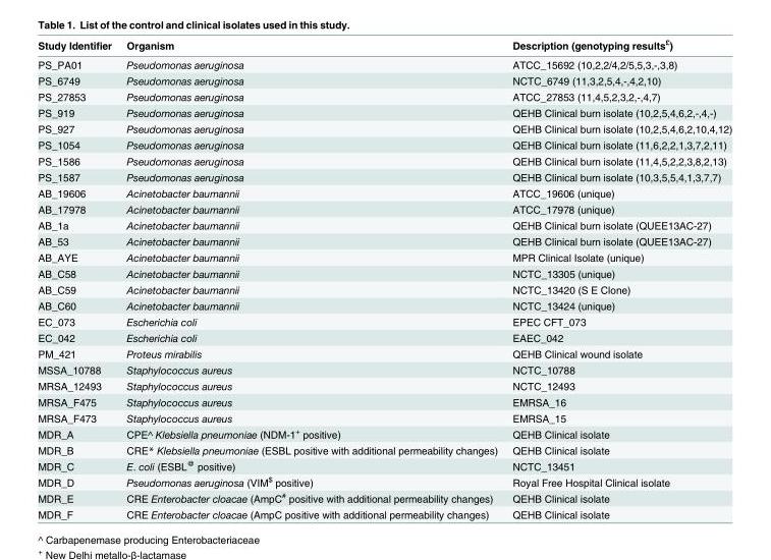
<table><thead><tr><td>Study Identifier</td><td>Organism</td><td>Description (genotyping results<sup>£</sup>)</td></tr></thead><tbody><tr><td>PS_PA01</td><td>Pseudomonas aeruginosa</td><td>ATCC_15692 (10,2,2/4,2/5,5,3,-,3,8)</td></tr><tr><td>PS_6749</td><td>Pseudomonas aeruginosa</td><td>NCTC_6749 (11,3,2,5,4,-,4,2,10)</td></tr><tr><td>PS_27853</td><td>Pseudomonas aeruginosa</td><td>ATCC_27853 (11,4,5,2,3,2,-,4,7)</td></tr><tr><td>PS_919</td><td>Pseudomonas aeruginosa</td><td>QEHB Clinical burn isolate (10,2,5,4,6,2,-,4,-)</td></tr><tr><td>PS_927</td><td>Pseudomonas aeruginosa</td><td>QEHB Clinical burn isolate (10,2,5,4,6,2,10,4,12)</td></tr><tr><td>PS_1054</td><td>Pseudomonas aeruginosa</td><td>QEHB Clinical burn isolate (11,6,2,2,1,3,7,2,11)</td></tr><tr><td>PS_1586</td><td>Pseudomonas aeruginosa</td><td>QEHB Clinical burn isolate (11,4,5,2,2,3,8,2,13)</td></tr><tr><td>PS_1587</td><td>Pseudomonas aeruginosa</td><td>QEHB Clinical burn isolate (10,3,5,5,4,1,3,7,7)</td></tr><tr><td>AB_19606</td><td>Acinetobacter baumannii</td><td>ATCC_19606 (unique)</td></tr><tr><td>AB_17978</td><td>Acinetobacter baumannii</td><td>ATCC_17978 (unique)</td></tr><tr><td>AB_1a</td><td>Acinetobacter baumannii</td><td>QEHB Clinical burn isolate (QUEE13AC-27)</td></tr><tr><td>AB_53</td><td>Acinetobacter baumannii</td><td>QEHB Clinical burn isolate (QUEE13AC-27)</td></tr><tr><td>AB_AYE</td><td>Acinetobacter baumannii</td><td>MPR Clinical Isolate (unique)</td></tr><tr><td>AB_C58</td><td>Acinetobacter baumannii</td><td>NCTC_13305 (unique)</td></tr><tr><td>AB_C59</td><td>Acinetobacter baumannii</td><td>NCTC_13420 (S E Clone)</td></tr><tr><td>AB_C60</td><td>Acinetobacter baumannii</td><td>NCTC_13424 (unique)</td></tr><tr><td>EC_073</td><td>Escherichia coli</td><td>EPEC CFT_073</td></tr><tr><td>EC_042</td><td>Escherichia coli</td><td>EAEC_042</td></tr><tr><td>PM_421</td><td>Proteus mirabilis</td><td>QEHB Clinical wound isolate</td></tr><tr><td>MSSA_10788</td><td>Staphylococcus aureus</td><td>NCTC_10788</td></tr><tr><td>MRSA_12493</td><td>Staphylococcus aureus</td><td>NCTC_12493</td></tr><tr><td>MRSA_F475</td><td>Staphylococcus aureus</td><td>EMRSA_16</td></tr><tr><td>MRSA_F473</td><td>Staphylococcus aureus</td><td>EMRSA_15</td></tr><tr><td>MDR_A</td><td>CPE^ Klebsiella pneumoniae (NDM-1<sup>+</sup> positive)</td><td>QEHB Clinical isolate</td></tr><tr><td>MDR_B</td><td>CRE* Klebsiella pneumoniae (ESBL positive with additional permeability changes)</td><td>QEHB Clinical isolate</td></tr><tr><td>MDR_C</td><td>E. coli (ESBL<sup>@</sup> positive)</td><td>NCTC_13451</td></tr><tr><td>MDR_D</td><td>Pseudomonas aeruginosa (VIM<sup>$</sup> positive)</td><td>Royal Free Hospital Clinical isolate</td></tr><tr><td>MDR_E</td><td>CRE Enterobacter cloacae (AmpC<sup>#</sup> positive with additional permeability changes)</td><td>QEHB Clinical isolate</td></tr><tr><td>MDR_F</td><td>CRE Enterobacter cloacae (AmpC positive with additional permeability changes)</td><td>QEHB Clinical isolate</td></tr></tbody></table>